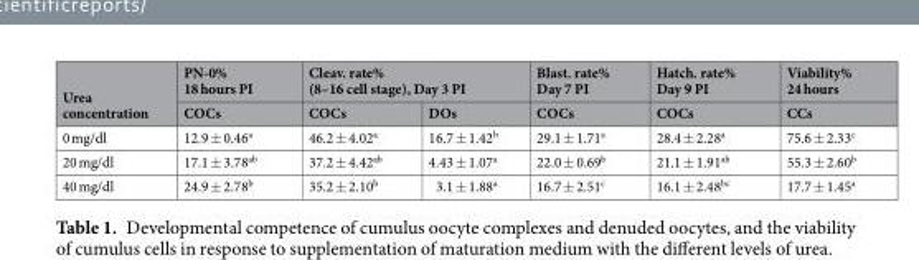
<table><thead><tr><td rowspan="2">Urea concentration</td><td rowspan="2">PN-0% 18 hours PI COCs</td><td colspan="2">Cleav. rate% (8–16 cell stage), Day 3 PI</td><td rowspan="2">Blast. rate% Day 7 PI COCs</td><td rowspan="2">Hatch. rate% Day 9 PI COCs</td><td rowspan="2">Viability% 24 hours CCs</td></tr><tr><td>COCs</td><td>DOs</td></tr></thead><tbody><tr><td>0 mg/dl</td><td>12.9 ± 0.46<sup>a</sup></td><td>46.2 ± 4.02<sup>a</sup></td><td>16.7 ± 1.42<sup>b</sup></td><td>29.1 ± 1.71<sup>a</sup></td><td>28.4 ± 2.28<sup>a</sup></td><td>75.6 ± 2.33<sup>c</sup></td></tr><tr><td>20 mg/dl</td><td>17.1 ± 3.78<sup>ab</sup></td><td>37.2 ± 4.42<sup>ab</sup></td><td>4.43 ± 1.07<sup>a</sup></td><td>22.0 ± 0.69<sup>b</sup></td><td>21.1 ± 1.91<sup>ab</sup></td><td>55.3 ± 2.60<sup>b</sup></td></tr><tr><td>40 mg/dl</td><td>24.9 ± 2.78<sup>b</sup></td><td>35.2 ± 2.10<sup>b</sup></td><td>3.1 ± 1.88<sup>a</sup></td><td>16.7 ± 2.51<sup>c</sup></td><td>16.1 ± 2.48<sup>bc</sup></td><td>17.7 ± 1.45<sup>a</sup></td></tr></tbody></table>